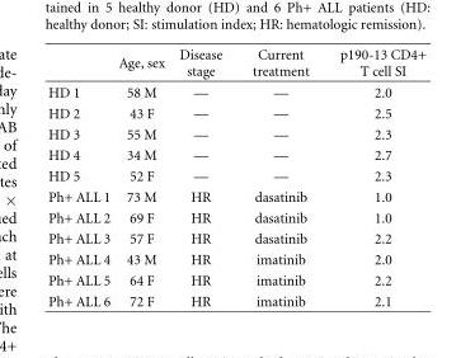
<table><thead><tr><td></td><td>Age, sex</td><td>Disease stage</td><td>Current treatment</td><td>p190-13 CD4+ T cell SI</td></tr></thead><tbody><tr><td>HD 1</td><td>58 M</td><td>—</td><td>—</td><td>2.0</td></tr><tr><td>HD 2</td><td>43 F</td><td>—</td><td>—</td><td>2.5</td></tr><tr><td>HD 3</td><td>55 M</td><td>—</td><td>—</td><td>2.3</td></tr><tr><td>HD 4</td><td>34 M</td><td>—</td><td>—</td><td>2.7</td></tr><tr><td>HD 5</td><td>52 F</td><td>—</td><td>—</td><td>2.3</td></tr><tr><td>Ph+ ALL 1</td><td>73 M</td><td>HR</td><td>dasatinib</td><td>1.0</td></tr><tr><td>Ph+ ALL 2</td><td>69 F</td><td>HR</td><td>dasatinib</td><td>1.0</td></tr><tr><td>Ph+ ALL 3</td><td>57 F</td><td>HR</td><td>dasatinib</td><td>2.2</td></tr><tr><td>Ph+ ALL 4</td><td>43 M</td><td>HR</td><td>imatinib</td><td>2.0</td></tr><tr><td>Ph+ ALL 5</td><td>64 F</td><td>HR</td><td>imatinib</td><td>2.2</td></tr><tr><td>Ph+ ALL 6</td><td>72 F</td><td>HR</td><td>imatinib</td><td>2.1</td></tr></tbody></table>